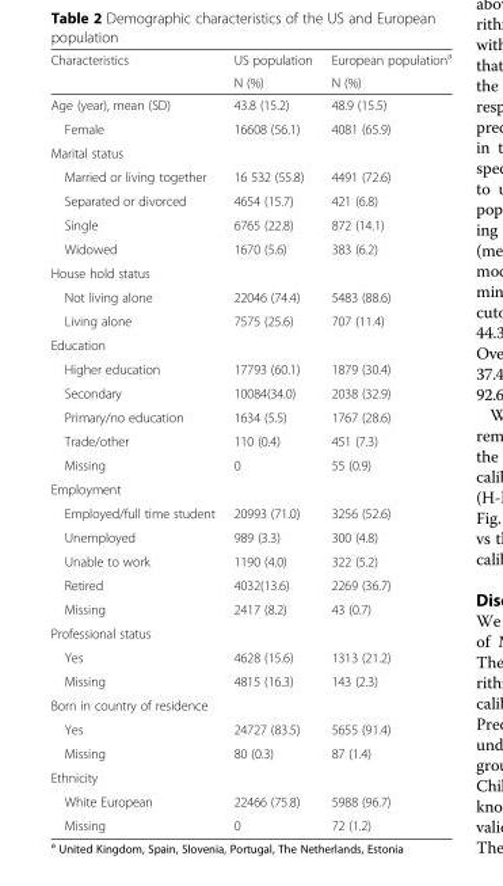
<table><thead><tr><td rowspan="2">Characteristics</td><td rowspan="2">US population N (%)</td><td rowspan="2">European population<sup>a</sup> N (%)</td></tr><tr></tr></thead><tbody><tr><td>Age (year), mean (SD)</td><td>43.8 (15.2)</td><td>48.9 (15.5)</td></tr><tr><td>Female</td><td>16608 (56.1)</td><td>4081 (65.9)</td></tr><tr><td colspan="3">Marital status</td></tr><tr><td>Married or living together</td><td>16 532 (55.8)</td><td>4491 (72.6)</td></tr><tr><td>Separated or divorced</td><td>4654 (15.7)</td><td>421 (6.8)</td></tr><tr><td>Single</td><td>6765 (22.8)</td><td>872 (14.1)</td></tr><tr><td>Widowed</td><td>1670 (5.6)</td><td>383 (6.2)</td></tr><tr><td colspan="3">House hold status</td></tr><tr><td>Not living alone</td><td>22046 (74.4)</td><td>5483 (88.6)</td></tr><tr><td>Living alone</td><td>7575 (25.6)</td><td>707 (11.4)</td></tr><tr><td colspan="3">Education</td></tr><tr><td>Higher education</td><td>17793 (60.1)</td><td>1879 (30.4)</td></tr><tr><td>Secondary</td><td>10084(34.0)</td><td>2038 (32.9)</td></tr><tr><td>Primary/no education</td><td>1634 (5.5)</td><td>1767 (28.6)</td></tr><tr><td>Trade/other</td><td>110 (0.4)</td><td>451 (7.3)</td></tr><tr><td>Missing</td><td>0</td><td>55 (0.9)</td></tr><tr><td colspan="3">Employment</td></tr><tr><td>Employed/full time student</td><td>20993 (71.0)</td><td>3256 (52.6)</td></tr><tr><td>Unemployed</td><td>989 (3.3)</td><td>300 (4.8)</td></tr><tr><td>Unable to work</td><td>1190 (4.0)</td><td>322 (5.2)</td></tr><tr><td>Retired</td><td>4032(13.6)</td><td>2269 (36.7)</td></tr><tr><td>Missing</td><td>2417 (8.2)</td><td>43 (0.7)</td></tr><tr><td colspan="3">Professional status</td></tr><tr><td>Yes</td><td>4628 (15.6)</td><td>1313 (21.2)</td></tr><tr><td>Missing</td><td>4815 (16.3)</td><td>143 (2.3)</td></tr><tr><td colspan="3">Born in country of residence</td></tr><tr><td>Yes</td><td>24727 (83.5)</td><td>5655 (91.4)</td></tr><tr><td>Missing</td><td>80 (0.3)</td><td>87 (1.4)</td></tr><tr><td colspan="3">Ethnicity</td></tr><tr><td>White European</td><td>22466 (75.8)</td><td>5988 (96.7)</td></tr><tr><td>Missing</td><td>0</td><td>72 (1.2)</td></tr></tbody></table>